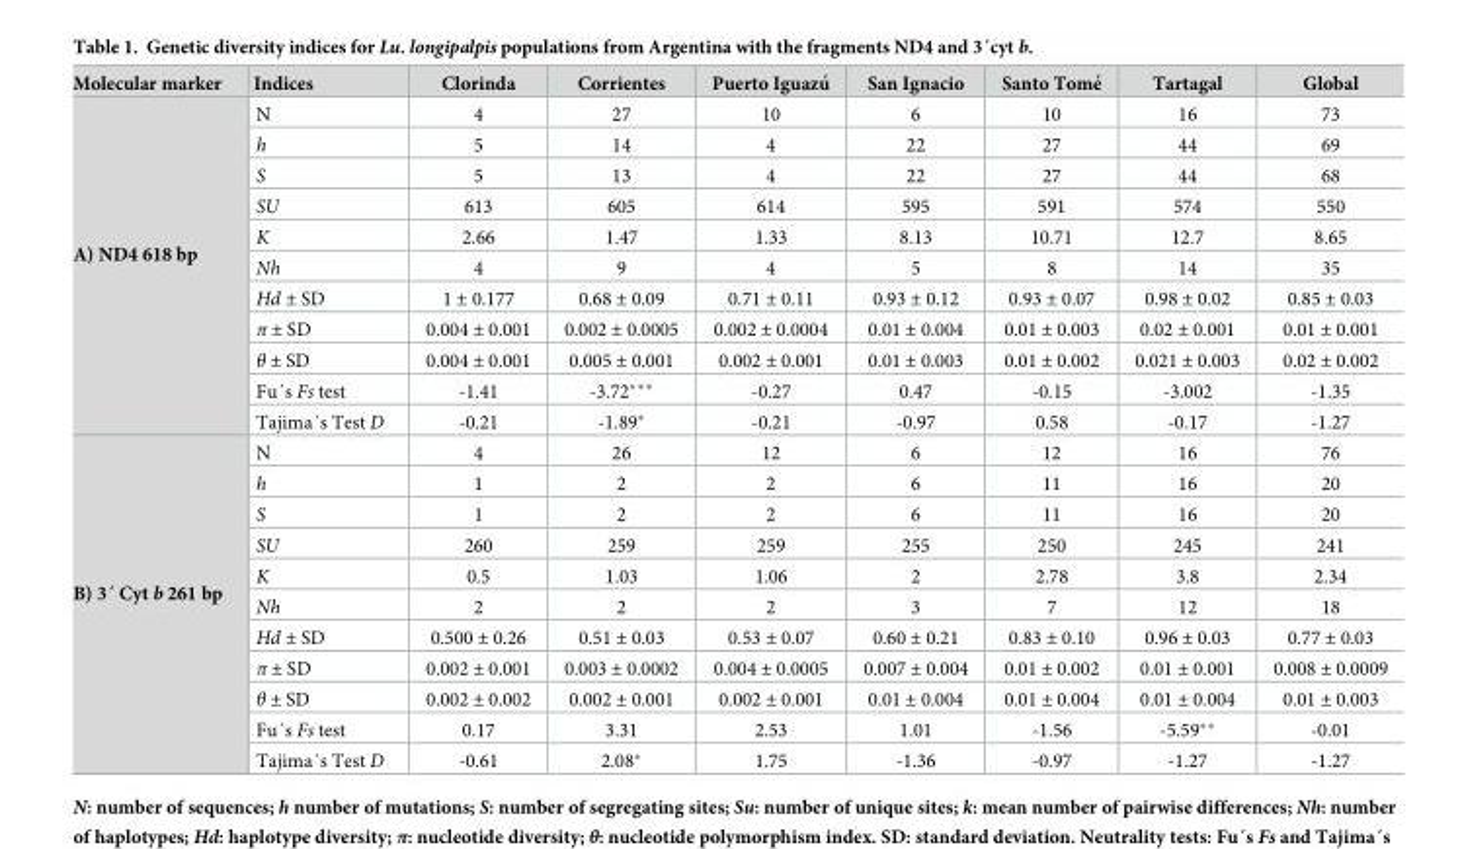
<table><thead><tr><td>Molecular marker</td><td>Indices</td><td>Clorinda</td><td>Corrientes</td><td>Puerto Iguazu´</td><td>San Ignacio</td><td>Santo Tome´</td><td>Tartagal</td><td>Global</td></tr></thead><tbody><tr><td rowspan="11">A) ND4 618 bp</td><td>N</td><td>4</td><td>27</td><td>10</td><td>6</td><td>10</td><td>16</td><td>73</td></tr><tr><td>h</td><td>5</td><td>14</td><td>4</td><td>22</td><td>27</td><td>44</td><td>69</td></tr><tr><td>S</td><td>5</td><td>13</td><td>4</td><td>22</td><td>27</td><td>44</td><td>68</td></tr><tr><td>SU</td><td>613</td><td>605</td><td>614</td><td>595</td><td>591</td><td>574</td><td>550</td></tr><tr><td>K</td><td>2.66</td><td>1.47</td><td>1.33</td><td>8.13</td><td>10.71</td><td>12.7</td><td>8.65</td></tr><tr><td>Nh</td><td>4</td><td>9</td><td>4</td><td>5</td><td>8</td><td>14</td><td>35</td></tr><tr><td>Hd ± SD</td><td>1 ± 0.177</td><td>0.68 ± 0.09</td><td>0.71 ± 0.11</td><td>0.93 ± 0.12</td><td>0.93 ± 0.07</td><td>0.98 ± 0.02</td><td>0.85 ± 0.03</td></tr><tr><td>π ± SD</td><td>0.004 ± 0.001</td><td>0.002 ± 0.0005</td><td>0.002 ± 0.0004</td><td>0.01 ± 0.004</td><td>0.01 ± 0.003</td><td>0.02 ± 0.001</td><td>0.01 ± 0.001</td></tr><tr><td>θ ± SD</td><td>0.004 ± 0.001</td><td>0.005 ± 0.001</td><td>0.002 ± 0.001</td><td>0.01 ± 0.003</td><td>0.01 ± 0.002</td><td>0.021 ± 0.003</td><td>0.02 ± 0.002</td></tr><tr><td>Fu´s Fs test</td><td>-1.41</td><td>-3.72***</td><td>-0.27</td><td>0.47</td><td>-0.15</td><td>-3.002</td><td>-1.35</td></tr><tr><td>Tajima´s Test D</td><td>-0.21</td><td>-1.89*</td><td>-0.21</td><td>-0.97</td><td>0.58</td><td>-0.17</td><td>-1.27</td></tr><tr><td rowspan="11">B) 3´ Cyt b 261 bp</td><td>N</td><td>4</td><td>26</td><td>12</td><td>6</td><td>12</td><td>16</td><td>76</td></tr><tr><td>h</td><td>1</td><td>2</td><td>2</td><td>6</td><td>11</td><td>16</td><td>20</td></tr><tr><td>S</td><td>1</td><td>2</td><td>2</td><td>6</td><td>11</td><td>16</td><td>20</td></tr><tr><td>SU</td><td>260</td><td>259</td><td>259</td><td>255</td><td>250</td><td>245</td><td>241</td></tr><tr><td>K</td><td>0.5</td><td>1.03</td><td>1.06</td><td>2</td><td>2.78</td><td>3.8</td><td>2.34</td></tr><tr><td>Nh</td><td>2</td><td>2</td><td>2</td><td>3</td><td>7</td><td>12</td><td>18</td></tr><tr><td>Hd ± SD</td><td>0.500 ± 0.26</td><td>0.51 ± 0.03</td><td>0.53 ± 0.07</td><td>0.60 ± 0.21</td><td>0.83 ± 0.10</td><td>0.96 ± 0.03</td><td>0.77 ± 0.03</td></tr><tr><td>π ± SD</td><td>0.002 ± 0.001</td><td>0.003 ± 0.0002</td><td>0.004 ± 0.0005</td><td>0.007 ± 0.004</td><td>0.01 ± 0.002</td><td>0.01 ± 0.001</td><td>0.008 ± 0.0009</td></tr><tr><td>θ ± SD</td><td>0.002 ± 0.002</td><td>0.002 ± 0.001</td><td>0.002 ± 0.001</td><td>0.01 ± 0.004</td><td>0.01 ± 0.004</td><td>0.01 ± 0.004</td><td>0.01 ± 0.003</td></tr><tr><td>Fu´s Fs test</td><td>0.17</td><td>3.31</td><td>2.53</td><td>1.01</td><td>-1.56</td><td>-5.59**</td><td>-0.01</td></tr><tr><td>Tajima´s Test D</td><td>-0.61</td><td>2.08*</td><td>1.75</td><td>-1.36</td><td>-0.97</td><td>-1.27</td><td>-1.27</td></tr></tbody></table>